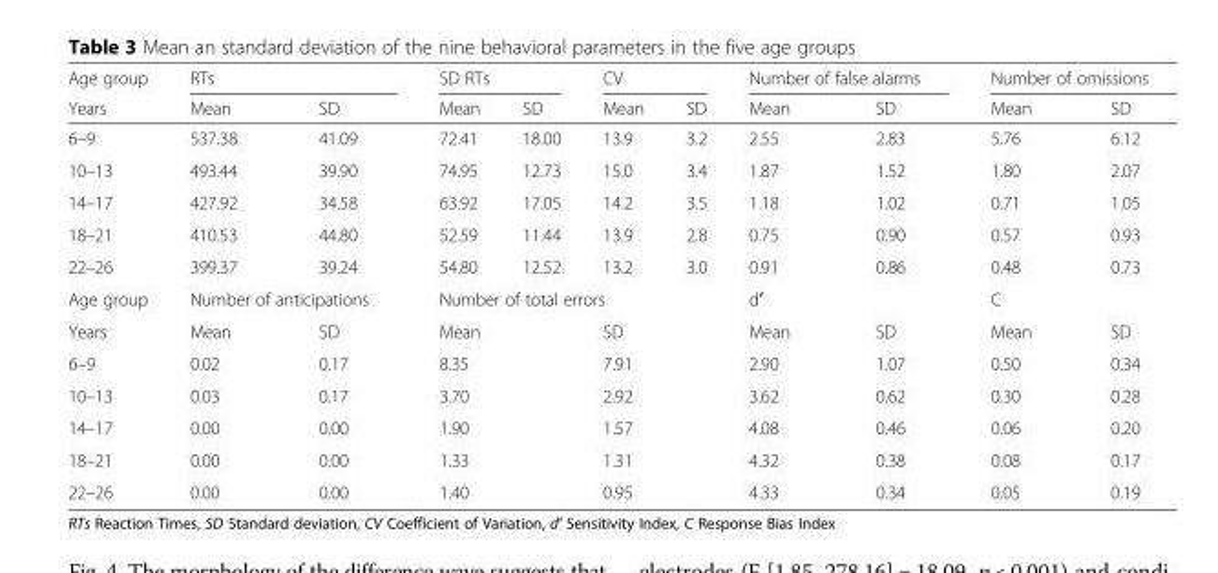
<table><thead><tr><td rowspan="2">Age group Years</td><td colspan="2">RTs</td><td colspan="2">SD RTs</td><td colspan="2">CV</td><td colspan="2">Number of false alarms</td><td colspan="2">Number of omissions</td></tr><tr><td>Mean</td><td>SD</td><td>Mean</td><td>SD</td><td>Mean</td><td>SD</td><td>Mean</td><td>SD</td><td>Mean</td><td>SD</td></tr></thead><tbody><tr><td>6–9</td><td>537.38</td><td>41.09</td><td>72.41</td><td>18.00</td><td>13.9</td><td>3.2</td><td>2.55</td><td>2.83</td><td>5.76</td><td>6.12</td></tr><tr><td>10–13</td><td>493.44</td><td>39.90</td><td>74.95</td><td>12.73</td><td>15.0</td><td>3.4</td><td>1.87</td><td>1.52</td><td>1.80</td><td>2.07</td></tr><tr><td>14–17</td><td>427.92</td><td>34.58</td><td>63.92</td><td>17.05</td><td>14.2</td><td>3.5</td><td>1.18</td><td>1.02</td><td>0.71</td><td>1.05</td></tr><tr><td>18–21</td><td>410.53</td><td>44.80</td><td>52.59</td><td>11.44</td><td>13.9</td><td>2.8</td><td>0.75</td><td>0.90</td><td>0.57</td><td>0.93</td></tr><tr><td>22–26</td><td>399.37</td><td>39.24</td><td>54.80</td><td>12.52</td><td>13.2</td><td>3.0</td><td>0.91</td><td>0.86</td><td>0.48</td><td>0.73</td></tr><tr><td>Age group</td><td colspan="2">Number of anticipations</td><td colspan="4">Number of total errors</td><td colspan="2">d′</td><td colspan="2">C</td></tr><tr><td>Years</td><td>Mean</td><td>SD</td><td colspan="2">Mean</td><td colspan="2">SD</td><td>Mean</td><td>SD</td><td>Mean</td><td>SD</td></tr><tr><td>6–9</td><td>0.02</td><td>0.17</td><td colspan="2">8.35</td><td colspan="2">7.91</td><td>2.90</td><td>1.07</td><td>0.50</td><td>0.34</td></tr><tr><td>10–13</td><td>0.03</td><td>0.17</td><td colspan="2">3.70</td><td colspan="2">2.92</td><td>3.62</td><td>0.62</td><td>0.30</td><td>0.28</td></tr><tr><td>14–17</td><td>0.00</td><td>0.00</td><td colspan="2">1.90</td><td colspan="2">1.57</td><td>4.08</td><td>0.46</td><td>0.06</td><td>0.20</td></tr><tr><td>18–21</td><td>0.00</td><td>0.00</td><td colspan="2">1.33</td><td colspan="2">1.31</td><td>4.32</td><td>0.38</td><td>0.08</td><td>0.17</td></tr><tr><td>22–26</td><td>0.00</td><td>0.00</td><td colspan="2">1.40</td><td colspan="2">0.95</td><td>4.33</td><td>0.34</td><td>0.05</td><td>0.19</td></tr></tbody></table>